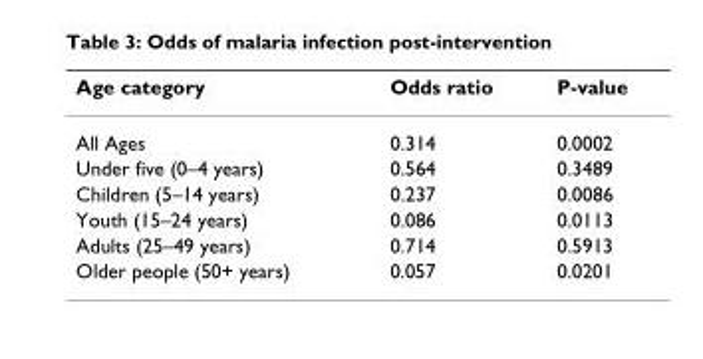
<table><thead><tr><td>Age category</td><td>Odds ratio</td><td>P-value</td></tr></thead><tbody><tr><td>All Ages</td><td>0.314</td><td>0.0002</td></tr><tr><td>Under five (0–4 years)</td><td>0.564</td><td>0.3489</td></tr><tr><td>Children (5–14 years)</td><td>0.237</td><td>0.0086</td></tr><tr><td>Youth (15–24 years)</td><td>0.086</td><td>0.0113</td></tr><tr><td>Adults (25–49 years)</td><td>0.714</td><td>0.5913</td></tr><tr><td>Older people (50+ years)</td><td>0.057</td><td>0.0201</td></tr></tbody></table>